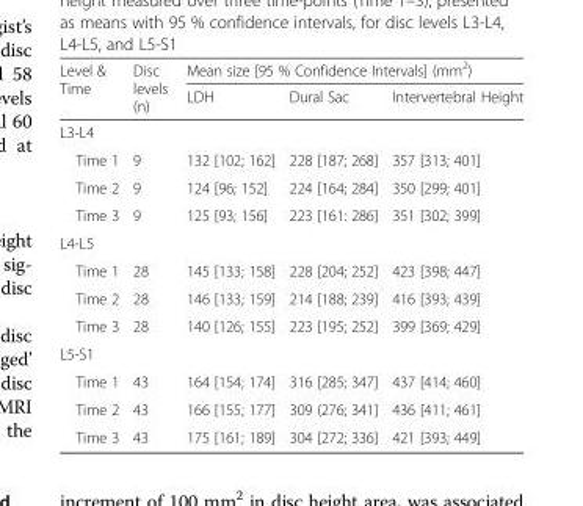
<table><thead><tr><td rowspan="2">Level &amp; Time</td><td rowspan="2">Disc levels (n)</td><td colspan="3">Mean size [95 % Confidence Intervals] (mm<sup>2</sup>)</td></tr><tr><td>LDH</td><td>Dural Sac</td><td>Intervertebral Height</td></tr></thead><tbody><tr><td colspan="5">L3-L4</td></tr><tr><td>Time 1</td><td>9</td><td>132 [102; 162]</td><td>228 [187; 268]</td><td>357 [313; 401]</td></tr><tr><td>Time 2</td><td>9</td><td>124 [96; 152]</td><td>224 [164; 284]</td><td>350 [299; 401]</td></tr><tr><td>Time 3</td><td>9</td><td>125 [93; 156]</td><td>223 [161: 286]</td><td>351 [302; 399]</td></tr><tr><td colspan="5">L4-L5</td></tr><tr><td>Time 1</td><td>28</td><td>145 [133; 158]</td><td>228 [204; 252]</td><td>423 [398; 447]</td></tr><tr><td>Time 2</td><td>28</td><td>146 [133; 159]</td><td>214 [188; 239]</td><td>416 [393; 439]</td></tr><tr><td>Time 3</td><td>28</td><td>140 [126; 155]</td><td>223 [195; 252]</td><td>399 [369; 429]</td></tr><tr><td colspan="5">L5-S1</td></tr><tr><td>Time 1</td><td>43</td><td>164 [154; 174]</td><td>316 [285; 347]</td><td>437 [414; 460]</td></tr><tr><td>Time 2</td><td>43</td><td>166 [155; 177]</td><td>309 (276; 341]</td><td>436 [411; 461]</td></tr><tr><td>Time 3</td><td>43</td><td>175 [161; 189]</td><td>304 [272; 336]</td><td>421 [393; 449]</td></tr></tbody></table>